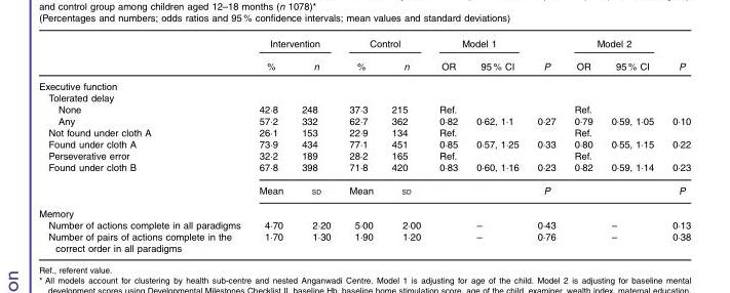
<table><thead><tr><td rowspan="2"></td><td colspan="2">Intervention</td><td colspan="2">Control</td><td colspan="2">Model 1</td><td rowspan="2">P</td><td colspan="2">Model 2</td><td rowspan="2">P</td></tr><tr><td>%</td><td>n</td><td>%</td><td>n</td><td>OR</td><td>95 % CI</td><td>OR</td><td>95 % CI</td></tr></thead><tbody><tr><td colspan="11">Executive function</td></tr><tr><td colspan="11">Tolerated delay</td></tr><tr><td>None</td><td>42·8</td><td>248</td><td>37·3</td><td>215</td><td>Ref.</td><td></td><td></td><td>Ref.</td><td></td><td></td></tr><tr><td>Any</td><td>57·2</td><td>332</td><td>62·7</td><td>362</td><td>0·82</td><td>0·62, 1·1</td><td>0·27</td><td>0·79</td><td>0·59, 1·05</td><td>0·10</td></tr><tr><td>Not found under cloth A</td><td>26·1</td><td>153</td><td>22·9</td><td>134</td><td>Ref.</td><td></td><td></td><td>Ref.</td><td></td><td></td></tr><tr><td>Found under cloth A</td><td>73·9</td><td>434</td><td>77·1</td><td>451</td><td>0·85</td><td>0·57, 1·25</td><td>0·33</td><td>0·80</td><td>0·55, 1·15</td><td>0·22</td></tr><tr><td>Perseverative error</td><td>32·2</td><td>189</td><td>28·2</td><td>165</td><td>Ref.</td><td></td><td></td><td>Ref.</td><td></td><td></td></tr><tr><td rowspan="2">Found under cloth B</td><td>67·8</td><td>398</td><td>71·8</td><td>420</td><td>0·83</td><td>0·60, 1·16</td><td>0·23</td><td>0·82</td><td>0·59, 1·14</td><td>0·23</td></tr><tr><td>Mean</td><td>SD</td><td>Mean</td><td>SD</td><td colspan="2"></td><td>P</td><td colspan="2"></td><td>P</td></tr><tr><td colspan="11">Memory</td></tr><tr><td>Number of actions complete in all paradigms</td><td>4·70</td><td>2·20</td><td>5·00</td><td>2·00</td><td colspan="2">–</td><td>0·43</td><td colspan="2">–</td><td>0·13</td></tr><tr><td>Number of pairs of actions complete in the correct order in all paradigms</td><td>1·70</td><td>1·30</td><td>1·90</td><td>1·20</td><td colspan="2">–</td><td>0·76</td><td colspan="2">–</td><td>0·38</td></tr></tbody></table>